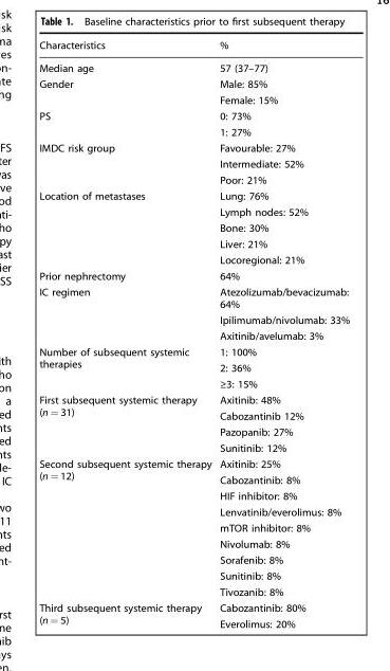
<table><thead><tr><td>Characteristics</td><td>%</td></tr></thead><tbody><tr><td>Median age</td><td>57 (37–77)</td></tr><tr><td rowspan="2">Gender</td><td>Male: 85%</td></tr><tr><td>Female: 15%</td></tr><tr><td rowspan="2">PS</td><td>0: 73%</td></tr><tr><td>1: 27%</td></tr><tr><td rowspan="3">IMDC risk group</td><td>Favourable: 27%</td></tr><tr><td>Intermediate: 52%</td></tr><tr><td>Poor: 21%</td></tr><tr><td rowspan="5">Location of metastases</td><td>Lung: 76%</td></tr><tr><td>Lymph nodes: 52%</td></tr><tr><td>Bone: 30%</td></tr><tr><td>Liver: 21%</td></tr><tr><td>Locoregional: 21%</td></tr><tr><td>Prior nephrectomy</td><td>64%</td></tr><tr><td rowspan="3">IC regimen</td><td>Atezolizumab/bevacizumab: 64%</td></tr><tr><td>Ipilimumab/nivolumab: 33%</td></tr><tr><td>Axitinib/avelumab: 3%</td></tr><tr><td rowspan="3">Number of subsequent systemic therapies</td><td>1: 100%</td></tr><tr><td>2: 36%</td></tr><tr><td>≥3: 15%</td></tr><tr><td rowspan="4">First subsequent systemic therapy (n = 31)</td><td>Axitinib: 48%</td></tr><tr><td>Cabozantinib 12%</td></tr><tr><td>Pazopanib: 27%</td></tr><tr><td>Sunitinib: 12%</td></tr><tr><td rowspan="9">Second subsequent systemic therapy (n = 12)</td><td>Axitinib: 25%</td></tr><tr><td>Cabozantinib: 8%</td></tr><tr><td>HIF inhibitor: 8%</td></tr><tr><td>Lenvatinib/everolimus: 8%</td></tr><tr><td>mTOR inhibitor: 8%</td></tr><tr><td>Nivolumab: 8%</td></tr><tr><td>Sorafenib: 8%</td></tr><tr><td>Sunitinib: 8%</td></tr><tr><td>Tivozanib: 8%</td></tr><tr><td rowspan="2">Third subsequent systemic therapy (n = 5)</td><td>Cabozantinib: 80%</td></tr><tr><td>Everolimus: 20%</td></tr></tbody></table>